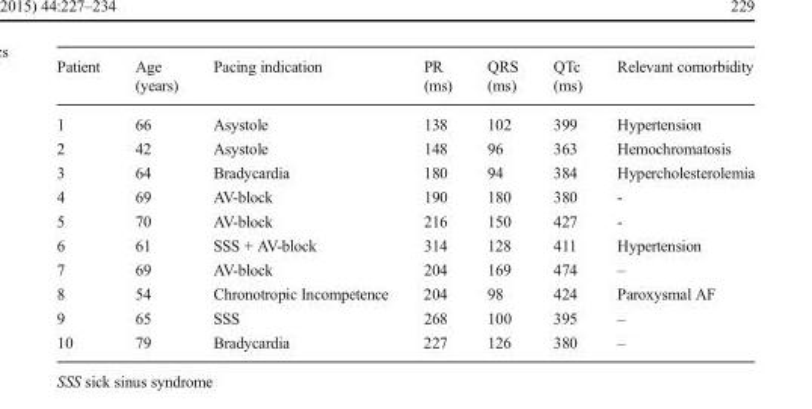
<table><thead><tr><td>Patient</td><td>Age (years)</td><td>Pacing indication</td><td>PR (ms)</td><td>QRS (ms)</td><td>QTc (ms)</td><td>Relevant comorbidity</td></tr></thead><tbody><tr><td>1</td><td>66</td><td>Asystole</td><td>138</td><td>102</td><td>399</td><td>Hypertension</td></tr><tr><td>2</td><td>42</td><td>Asystole</td><td>148</td><td>96</td><td>363</td><td>Hemochromatosis</td></tr><tr><td>3</td><td>64</td><td>Bradycardia</td><td>180</td><td>94</td><td>384</td><td>Hypercholesterolemia</td></tr><tr><td>4</td><td>69</td><td>AV-block</td><td>190</td><td>180</td><td>380</td><td>-</td></tr><tr><td>5</td><td>70</td><td>AV-block</td><td>216</td><td>150</td><td>427</td><td>-</td></tr><tr><td>6</td><td>61</td><td>SSS + AV-block</td><td>314</td><td>128</td><td>411</td><td>Hypertension</td></tr><tr><td>7</td><td>69</td><td>AV-block</td><td>204</td><td>169</td><td>474</td><td>–</td></tr><tr><td>8</td><td>54</td><td>Chronotropic Incompetence</td><td>204</td><td>98</td><td>424</td><td>Paroxysmal AF</td></tr><tr><td>9</td><td>65</td><td>SSS</td><td>268</td><td>100</td><td>395</td><td>–</td></tr><tr><td>10</td><td>79</td><td>Bradycardia</td><td>227</td><td>126</td><td>380</td><td>–</td></tr></tbody></table>